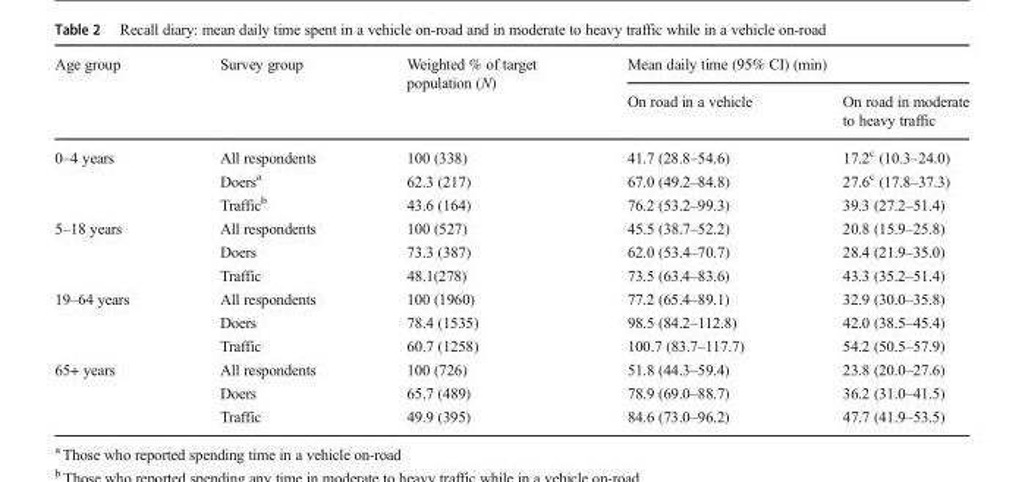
<table><thead><tr><td rowspan="2">Age group</td><td rowspan="2">Survey group</td><td rowspan="2">Weighted % of target population (N)</td><td colspan="2">Mean daily time (95% CI) (min)</td></tr><tr><td>On road in a vehicle</td><td>On road in moderate to heavy traffic</td></tr></thead><tbody><tr><td rowspan="3">0–4 years</td><td>All respondents</td><td>100 (338)</td><td>41.7 (28.8–54.6)</td><td>17.2<sup>c</sup> (10.3–24.0)</td></tr><tr><td>Doers<sup>a</sup></td><td>62.3 (217)</td><td>67.0 (49.2–84.8)</td><td>27.6<sup>c</sup> (17.8–37.3)</td></tr><tr><td>Traffic<sup>b</sup></td><td>43.6 (164)</td><td>76.2 (53.2–99.3)</td><td>39.3 (27.2–51.4)</td></tr><tr><td rowspan="3">5–18 years</td><td>All respondents</td><td>100 (527)</td><td>45.5 (38.7–52.2)</td><td>20.8 (15.9–25.8)</td></tr><tr><td>Doers</td><td>73.3 (387)</td><td>62.0 (53.4–70.7)</td><td>28.4 (21.9–35.0)</td></tr><tr><td>Traffic</td><td>48.1(278)</td><td>73.5 (63.4–83.6)</td><td>43.3 (35.2–51.4)</td></tr><tr><td rowspan="3">19–64 years</td><td>All respondents</td><td>100 (1960)</td><td>77.2 (65.4–89.1)</td><td>32.9 (30.0–35.8)</td></tr><tr><td>Doers</td><td>78.4 (1535)</td><td>98.5 (84.2–112.8)</td><td>42.0 (38.5–45.4)</td></tr><tr><td>Traffic</td><td>60.7 (1258)</td><td>100.7 (83.7–117.7)</td><td>54.2 (50.5–57.9)</td></tr><tr><td rowspan="3">65+ years</td><td>All respondents</td><td>100 (726)</td><td>51.8 (44.3–59.4)</td><td>23.8 (20.0–27.6)</td></tr><tr><td>Doers</td><td>65.7 (489)</td><td>78.9 (69.0–88.7)</td><td>36.2 (31.0–41.5)</td></tr><tr><td>Traffic</td><td>49.9 (395)</td><td>84.6 (73.0–96.2)</td><td>47.7 (41.9–53.5)</td></tr></tbody></table>